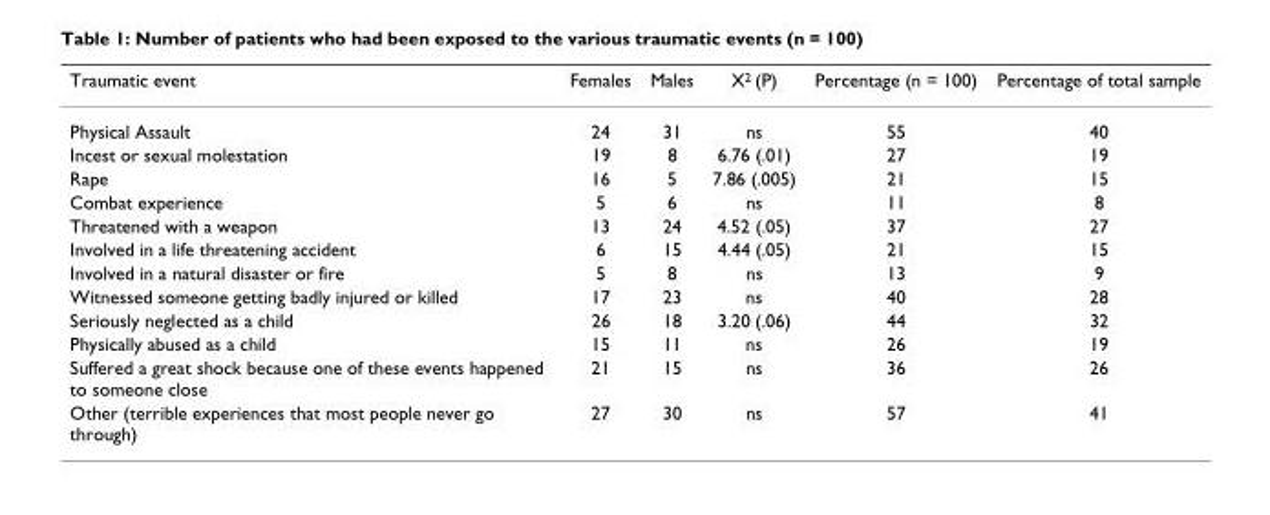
<table><thead><tr><td>Traumatic event</td><td>Females</td><td>Males</td><td>X<sup>2</sup> (P)</td><td>Percentage (n = 100)</td><td>Percentage of total sample</td></tr></thead><tbody><tr><td>Physical Assault</td><td>24</td><td>31</td><td>ns</td><td>55</td><td>40</td></tr><tr><td>Incest or sexual molestation</td><td>19</td><td>8</td><td>6.76 (.01)</td><td>27</td><td>19</td></tr><tr><td>Rape</td><td>16</td><td>5</td><td>7.86 (.005)</td><td>21</td><td>15</td></tr><tr><td>Combat experience</td><td>5</td><td>6</td><td>ns</td><td>11</td><td>8</td></tr><tr><td>Threatened with a weapon</td><td>13</td><td>24</td><td>4.52 (.05)</td><td>37</td><td>27</td></tr><tr><td>Involved in a life threatening accident</td><td>6</td><td>15</td><td>4.44 (.05)</td><td>21</td><td>15</td></tr><tr><td>Involved in a natural disaster or fire</td><td>5</td><td>8</td><td>ns</td><td>13</td><td>9</td></tr><tr><td>Witnessed someone getting badly injured or killed</td><td>17</td><td>23</td><td>ns</td><td>40</td><td>28</td></tr><tr><td>Seriously neglected as a child</td><td>26</td><td>18</td><td>3.20 (.06)</td><td>44</td><td>32</td></tr><tr><td>Physically abused as a child</td><td>15</td><td>11</td><td>ns</td><td>26</td><td>19</td></tr><tr><td>Suffered a great shock because one of these events happened to someone close</td><td>21</td><td>15</td><td>ns</td><td>36</td><td>26</td></tr><tr><td>Other (terrible experiences that most people never go through)</td><td>27</td><td>30</td><td>ns</td><td>57</td><td>41</td></tr></tbody></table>